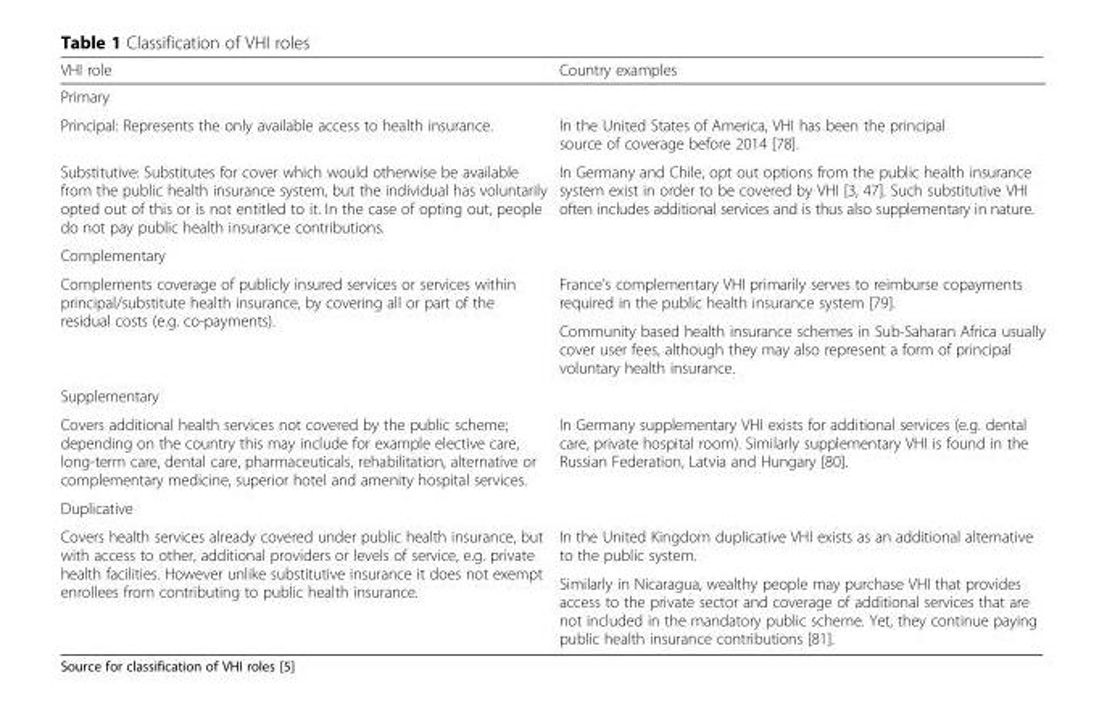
<table><thead><tr><td>VHI role</td><td>Country examples</td></tr></thead><tbody><tr><td colspan="2">Primary</td></tr><tr><td>Principal: Represents the only available access to health insurance.</td><td>In the United States of America, VHI has been the principal source of coverage before 2014 [78].</td></tr><tr><td>Substitutive: Substitutes for cover which would otherwise be available from the public health insurance system, but the individual has voluntarily opted out of this or is not entitled to it. In the case of opting out, people do not pay public health insurance contributions.</td><td>In Germany and Chile, opt out options from the public health insurance system exist in order to be covered by VHI [3, 47]. Such substitutive VHI often includes additional services and is thus also supplementary in nature.</td></tr><tr><td colspan="2">Complementary</td></tr><tr><td rowspan="2">Complements coverage of publicly insured services or services within principal/substitute health insurance, by covering all or part of the residual costs (e.g. co-payments).</td><td>France’s complementary VHI primarily serves to reimburse copayments required in the public health insurance system [79].</td></tr><tr><td>Community based health insurance schemes in Sub-Saharan Africa usually cover user fees, although they may also represent a form of principal voluntary health insurance.</td></tr><tr><td colspan="2">Supplementary</td></tr><tr><td>Covers additional health services not covered by the public scheme; depending on the country this may include for example elective care, long-term care, dental care, pharmaceuticals, rehabilitation, alternative or complementary medicine, superior hotel and amenity hospital services.</td><td>In Germany supplementary VHI exists for additional services (e.g. dental care, private hospital room). Similarly supplementary VHI is found in the Russian Federation, Latvia and Hungary [80].</td></tr><tr><td colspan="2">Duplicative</td></tr><tr><td rowspan="2">Covers health services already covered under public health insurance, but with access to other, additional providers or levels of service, e.g. private health facilities. However unlike substitutive insurance it does not exempt enrollees from contributing to public health insurance.</td><td>In the United Kingdom duplicative VHI exists as an additional alternative to the public system.</td></tr><tr><td>Similarly in Nicaragua, wealthy people may purchase VHI that provides access to the private sector and coverage of additional services that are not included in the mandatory public scheme. Yet, they continue paying public health insurance contributions [81].</td></tr></tbody></table>